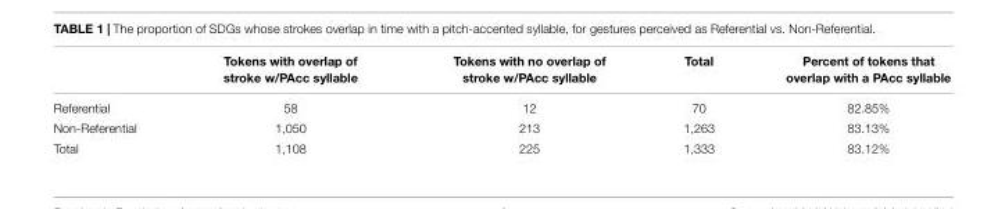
<table><thead><tr><td></td><td>Tokens with overlap of stroke w/PAcc syllable</td><td>Tokens with no overlap of stroke w/PAcc syllable</td><td>Total</td><td>Percent of tokens that overlap with a PAcc syllable</td></tr></thead><tbody><tr><td>Referential</td><td>58</td><td>12</td><td>70</td><td>82.85%</td></tr><tr><td>Non-Referential</td><td>1,050</td><td>213</td><td>1,263</td><td>83.13%</td></tr><tr><td>Total</td><td>1,108</td><td>225</td><td>1,333</td><td>83.12%</td></tr></tbody></table>